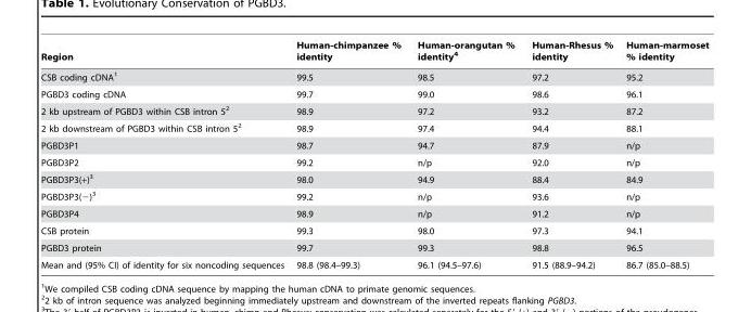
<table><thead><tr><td>Region</td><td>Human-chimpanzee % identity</td><td>Human-orangutan % identity<sup>4</sup></td><td>Human-Rhesus % identity</td><td>Human-marmoset % identity</td></tr></thead><tbody><tr><td>CSB coding cDNA<sup>1</sup></td><td>99.5</td><td>98.5</td><td>97.2</td><td>95.2</td></tr><tr><td>PGBD3 coding cDNA</td><td>99.7</td><td>99.0</td><td>98.6</td><td>96.1</td></tr><tr><td>2 kb upstream of PGBD3 within CSB intron 5<sup>2</sup></td><td>98.9</td><td>97.2</td><td>93.2</td><td>87.2</td></tr><tr><td>2 kb downstream of PGBD3 within CSB intron 5<sup>2</sup></td><td>98.9</td><td>97.4</td><td>94.4</td><td>88.1</td></tr><tr><td>PGBD3P1</td><td>98.7</td><td>94.7</td><td>87.9</td><td>n/p</td></tr><tr><td>PGBD3P2</td><td>99.2</td><td>n/p</td><td>92.0</td><td>n/p</td></tr><tr><td>PGBD3P3(+)<sup>3</sup></td><td>98.0</td><td>94.9</td><td>88.4</td><td>84.9</td></tr><tr><td>PGBD3P3(−)<sup>3</sup></td><td>99.2</td><td>n/p</td><td>93.6</td><td>n/p</td></tr><tr><td>PGBD3P4</td><td>98.9</td><td>n/p</td><td>91.2</td><td>n/p</td></tr><tr><td>CSB protein</td><td>99.3</td><td>98.0</td><td>97.3</td><td>94.1</td></tr><tr><td>PGBD3 protein</td><td>99.7</td><td>99.3</td><td>98.8</td><td>96.5</td></tr><tr><td>Mean and (95% CI) of identity for six noncoding sequences</td><td>98.8 (98.4–99.3)</td><td>96.1 (94.5–97.6)</td><td>91.5 (88.9–94.2)</td><td>86.7 (85.0–88.5)</td></tr></tbody></table>